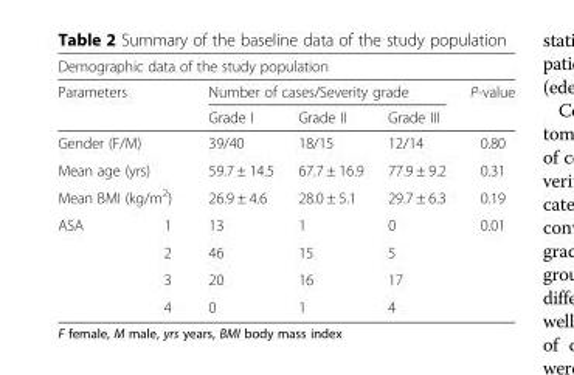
<table><thead><tr><td colspan="6">Demographic data of the study population</td></tr><tr><td rowspan="2">Parameters</td><td rowspan="2"></td><td colspan="3">Number of cases/Severity grade</td><td rowspan="2">P-value</td></tr><tr><td>Grade I</td><td>Grade II</td><td>Grade III</td></tr></thead><tbody><tr><td colspan="2">Gender (F/M)</td><td>39/40</td><td>18/15</td><td>12/14</td><td>0.80</td></tr><tr><td colspan="2">Mean age (yrs)</td><td>59.7 ± 14.5</td><td>67.7 ± 16.9</td><td>77.9 ± 9.2</td><td>0.31</td></tr><tr><td colspan="2">Mean BMI (kg/m<sup>2</sup>)</td><td>26.9 ± 4.6</td><td>28.0 ± 5.1</td><td>29.7 ± 6.3</td><td>0.19</td></tr><tr><td rowspan="4">ASA</td><td>1</td><td>13</td><td>1</td><td>0</td><td rowspan="4">0.01</td></tr><tr><td>2</td><td>46</td><td>15</td><td>5</td></tr><tr><td>3</td><td>20</td><td>16</td><td>17</td></tr><tr><td>4</td><td>0</td><td>1</td><td>4</td></tr></tbody></table>